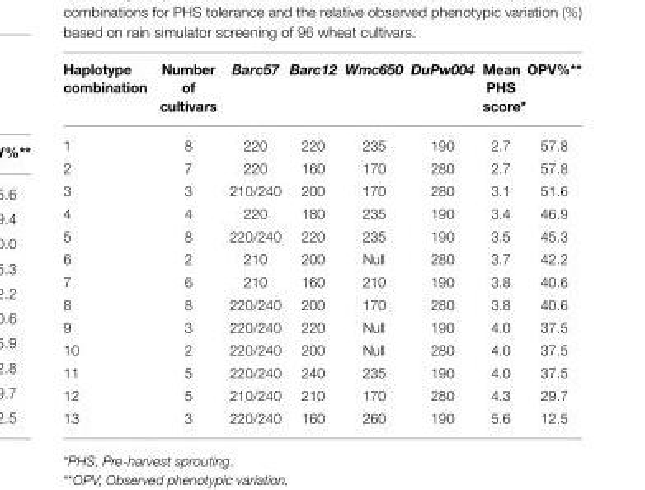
<table><thead><tr><td>Haplotype combination</td><td>Number of cultivars</td><td>Barc57</td><td>Barc12</td><td>Wmc650</td><td>DuPw004</td><td>Mean PHS score*</td><td>OPV%**</td></tr></thead><tbody><tr><td>1</td><td>8</td><td>220</td><td>220</td><td>235</td><td>190</td><td>2.7</td><td>57.8</td></tr><tr><td>2</td><td>7</td><td>220</td><td>160</td><td>170</td><td>280</td><td>2.7</td><td>57.8</td></tr><tr><td>3</td><td>3</td><td>210/240</td><td>200</td><td>170</td><td>280</td><td>3.1</td><td>51.6</td></tr><tr><td>4</td><td>4</td><td>220</td><td>180</td><td>235</td><td>190</td><td>3.4</td><td>46.9</td></tr><tr><td>5</td><td>8</td><td>220/240</td><td>220</td><td>235</td><td>190</td><td>3.5</td><td>45.3</td></tr><tr><td>6</td><td>2</td><td>210</td><td>200</td><td>Null</td><td>280</td><td>3.7</td><td>42.2</td></tr><tr><td>7</td><td>6</td><td>210</td><td>160</td><td>210</td><td>190</td><td>3.8</td><td>40.6</td></tr><tr><td>8</td><td>8</td><td>220/240</td><td>200</td><td>170</td><td>280</td><td>3.8</td><td>40.6</td></tr><tr><td>9</td><td>3</td><td>220/240</td><td>220</td><td>Null</td><td>190</td><td>4.0</td><td>37.5</td></tr><tr><td>10</td><td>2</td><td>220/240</td><td>200</td><td>Null</td><td>280</td><td>4.0</td><td>37.5</td></tr><tr><td>11</td><td>5</td><td>220/240</td><td>240</td><td>235</td><td>190</td><td>4.0</td><td>37.5</td></tr><tr><td>12</td><td>5</td><td>210/240</td><td>210</td><td>170</td><td>280</td><td>4.3</td><td>29.7</td></tr><tr><td>13</td><td>3</td><td>220/240</td><td>160</td><td>260</td><td>190</td><td>5.6</td><td>12.5</td></tr></tbody></table>